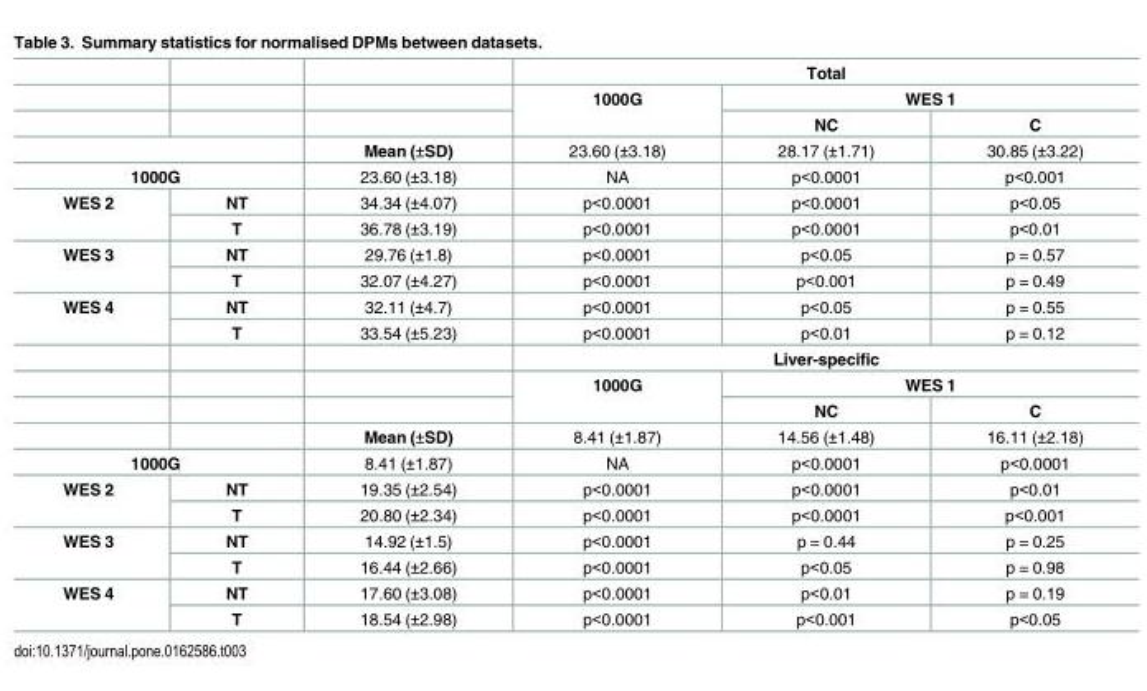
<table><thead><tr><td rowspan="3"></td><td rowspan="3"></td><td rowspan="3"></td><td colspan="3">Total</td></tr><tr><td rowspan="2">1000G</td><td colspan="2">WES 1</td></tr><tr><td>NC</td><td>C</td></tr></thead><tbody><tr><td colspan="2"></td><td>Mean (±SD)</td><td>23.60 (±3.18)</td><td>28.17 (±1.71)</td><td>30.85 (±3.22)</td></tr><tr><td colspan="2">1000G</td><td>23.60 (±3.18)</td><td>NA</td><td>p&lt;0.0001</td><td>p&lt;0.001</td></tr><tr><td rowspan="2">WES 2</td><td>NT</td><td>34.34 (±4.07)</td><td>p&lt;0.0001</td><td>p&lt;0.0001</td><td>p&lt;0.05</td></tr><tr><td>T</td><td>36.78 (±3.19)</td><td>p&lt;0.0001</td><td>p&lt;0.0001</td><td>p&lt;0.01</td></tr><tr><td rowspan="2">WES 3</td><td>NT</td><td>29.76 (±1.8)</td><td>p&lt;0.0001</td><td>p&lt;0.05</td><td>p = 0.57</td></tr><tr><td>T</td><td>32.07 (±4.27)</td><td>p&lt;0.0001</td><td>p&lt;0.001</td><td>p = 0.49</td></tr><tr><td rowspan="6">WES 4</td><td>NT</td><td>32.11 (±4.7)</td><td>p&lt;0.0001</td><td>p&lt;0.05</td><td>p = 0.55</td></tr><tr><td>T</td><td>33.54 (±5.23)</td><td>p&lt;0.0001</td><td>p&lt;0.01</td><td>p = 0.12</td></tr><tr><td></td><td></td><td colspan="3">Liver-specific</td></tr><tr><td></td><td></td><td rowspan="2">1000G</td><td colspan="2">WES 1</td></tr><tr><td></td><td></td><td>NC</td><td>C</td></tr><tr><td></td><td>Mean (±SD)</td><td>8.41 (±1.87)</td><td>14.56 (±1.48)</td><td>16.11 (±2.18)</td></tr><tr><td colspan="2">1000G</td><td>8.41 (±1.87)</td><td>NA</td><td>p&lt;0.0001</td><td>p&lt;0.0001</td></tr><tr><td rowspan="2">WES 2</td><td>NT</td><td>19.35 (±2.54)</td><td>p&lt;0.0001</td><td>p&lt;0.0001</td><td>p&lt;0.01</td></tr><tr><td>T</td><td>20.80 (±2.34)</td><td>p&lt;0.0001</td><td>p&lt;0.0001</td><td>p&lt;0.001</td></tr><tr><td rowspan="2">WES 3</td><td>NT</td><td>14.92 (±1.5)</td><td>p&lt;0.0001</td><td>p = 0.44</td><td>p = 0.25</td></tr><tr><td>T</td><td>16.44 (±2.66)</td><td>p&lt;0.0001</td><td>p&lt;0.05</td><td>p = 0.98</td></tr><tr><td rowspan="2">WES 4</td><td>NT</td><td>17.60 (±3.08)</td><td>p&lt;0.0001</td><td>p&lt;0.01</td><td>p = 0.19</td></tr><tr><td>T</td><td>18.54 (±2.98)</td><td>p&lt;0.0001</td><td>p&lt;0.001</td><td>p&lt;0.05</td></tr></tbody></table>